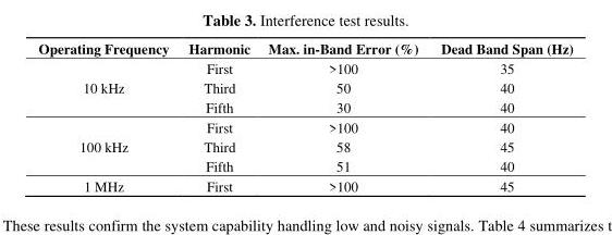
<table><thead><tr><td>Operating Frequency</td><td>Harmonic</td><td>Max. in-Band Error (%)</td><td>Dead Band Span (Hz)</td></tr></thead><tbody><tr><td rowspan="3">10 kHz</td><td>First</td><td>&gt;100</td><td>35</td></tr><tr><td>Third</td><td>50</td><td>40</td></tr><tr><td>Fifth</td><td>30</td><td>40</td></tr><tr><td rowspan="3">100 kHz</td><td>First</td><td>&gt;100</td><td>40</td></tr><tr><td>Third</td><td>58</td><td>45</td></tr><tr><td>Fifth</td><td>51</td><td>40</td></tr><tr><td>1 MHz</td><td>First</td><td>&gt;100</td><td>45</td></tr></tbody></table>